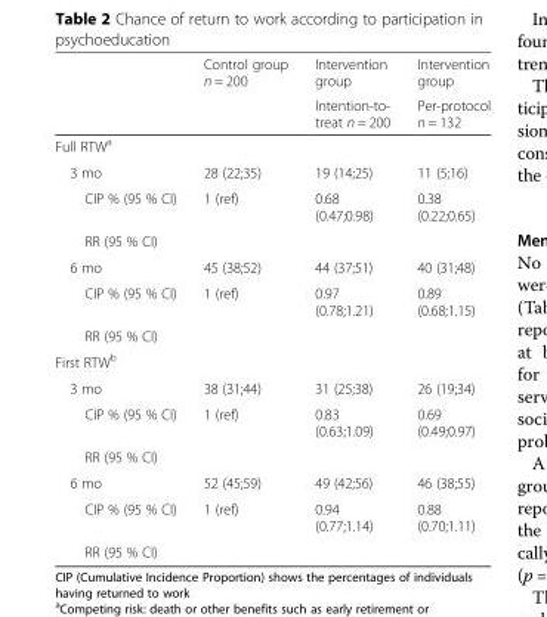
<table><thead><tr><td rowspan="2"></td><td rowspan="2">Control group n = 200</td><td rowspan="2">Intervention group Intention-to- treat n = 200</td><td rowspan="2">Intervention group Per-protocol n = 132</td></tr><tr></tr></thead><tbody><tr><td colspan="4">Full RTW<sup>a</sup></td></tr><tr><td>3 mo</td><td>28 (22;35)</td><td>19 (14;25)</td><td>11 (5;16)</td></tr><tr><td>CIP % (95 % CI)</td><td>1 (ref)</td><td>0.68 (0.47;0.98)</td><td>0.38 (0.22;0.65)</td></tr><tr><td colspan="4">RR (95 % CI)</td></tr><tr><td>6 mo</td><td>45 (38;52)</td><td>44 (37;51)</td><td>40 (31;48)</td></tr><tr><td>CIP % (95 % CI)</td><td>1 (ref)</td><td>0.97 (0.78;1.21)</td><td>0.89 (0.68;1.15)</td></tr><tr><td colspan="4">RR (95 % CI)</td></tr><tr><td colspan="4">First RTW<sup>b</sup></td></tr><tr><td>3 mo</td><td>38 (31;44)</td><td>31 (25;38)</td><td>26 (19;34)</td></tr><tr><td>CIP % (95 % CI)</td><td>1 (ref)</td><td>0.83 (0.63;1.09)</td><td>0.69 (0.49;0.97)</td></tr><tr><td colspan="4">RR (95 % CI)</td></tr><tr><td>6 mo</td><td>52 (45;59)</td><td>49 (42;56)</td><td>46 (38;55)</td></tr><tr><td>CIP % (95 % CI)</td><td>1 (ref)</td><td>0.94 (0.77;1.14)</td><td>0.88 (0.70;1.11)</td></tr><tr><td>RR (95 % CI)</td><td></td><td></td><td></td></tr></tbody></table>